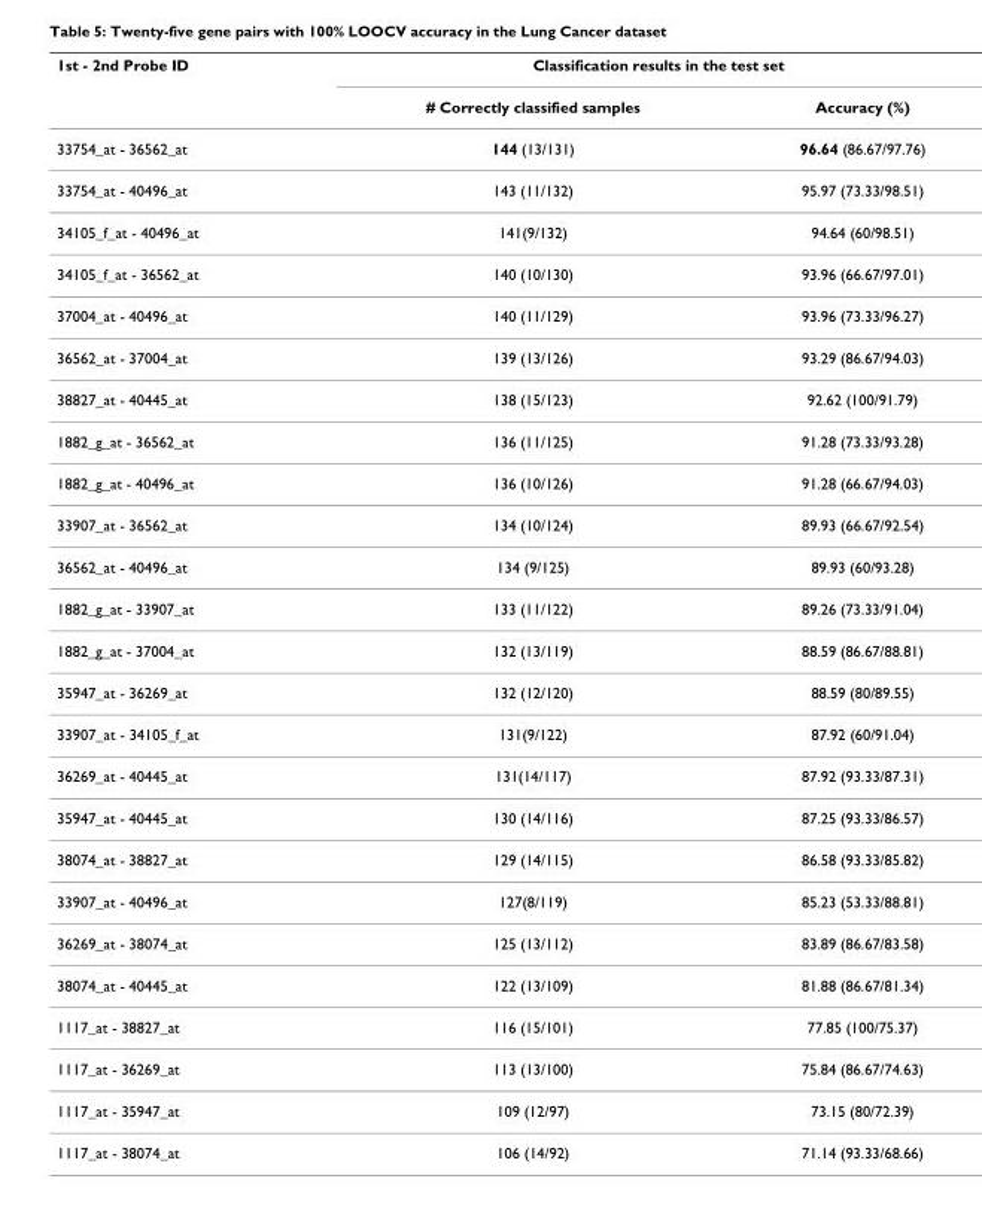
<table><thead><tr><td rowspan="2">1st - 2nd Probe ID</td><td colspan="2">Classification results in the test set</td></tr><tr><td># Correctly classified samples</td><td>Accuracy (%)</td></tr></thead><tbody><tr><td>33754_at - 36562_at</td><td>144 (13/131)</td><td>96.64 (86.67/97.76)</td></tr><tr><td>33754_at - 40496_at</td><td>143 (11/132)</td><td>95.97 (73.33/98.51)</td></tr><tr><td>34105_f_at - 40496_at</td><td>141(9/132)</td><td>94.64 (60/98.51)</td></tr><tr><td>34105_f_at - 36562_at</td><td>140 (10/130)</td><td>93.96 (66.67/97.01)</td></tr><tr><td>37004_at - 40496_at</td><td>140 (11/129)</td><td>93.96 (73.33/96.27)</td></tr><tr><td>36562_at - 37004_at</td><td>139 (13/126)</td><td>93.29 (86.67/94.03)</td></tr><tr><td>38827_at - 40445_at</td><td>138 (15/123)</td><td>92.62 (100/91.79)</td></tr><tr><td>1882_g_at - 36562_at</td><td>136 (11/125)</td><td>91.28 (73.33/93.28)</td></tr><tr><td>1882_g_at - 40496_at</td><td>136 (10/126)</td><td>91.28 (66.67/94.03)</td></tr><tr><td>33907_at - 36562_at</td><td>134 (10/124)</td><td>89.93 (66.67/92.54)</td></tr><tr><td>36562_at - 40496_at</td><td>134 (9/125)</td><td>89.93 (60/93.28)</td></tr><tr><td>1882_g_at - 33907_at</td><td>133 (11/122)</td><td>89.26 (73.33/91.04)</td></tr><tr><td>1882_g_at - 37004_at</td><td>132 (13/119)</td><td>88.59 (86.67/88.81)</td></tr><tr><td>35947_at - 36269_at</td><td>132 (12/120)</td><td>88.59 (80/89.55)</td></tr><tr><td>33907_at - 34105_f_at</td><td>131(9/122)</td><td>87.92 (60/91.04)</td></tr><tr><td>36269_at - 40445_at</td><td>131(14/117)</td><td>87.92 (93.33/87.31)</td></tr><tr><td>35947_at - 40445_at</td><td>130 (14/116)</td><td>87.25 (93.33/86.57)</td></tr><tr><td>38074_at - 38827_at</td><td>129 (14/115)</td><td>86.58 (93.33/85.82)</td></tr><tr><td>33907_at - 40496_at</td><td>127(8/119)</td><td>85.23 (53.33/88.81)</td></tr><tr><td>36269_at - 38074_at</td><td>125 (13/112)</td><td>83.89 (86.67/83.58)</td></tr><tr><td>38074_at - 40445_at</td><td>122 (13/109)</td><td>81.88 (86.67/81.34)</td></tr><tr><td>1117_at - 38827_at</td><td>116 (15/101)</td><td>77.85 (100/75.37)</td></tr><tr><td>1117_at - 36269_at</td><td>113 (13/100)</td><td>75.84 (86.67/74.63)</td></tr><tr><td>1117_at - 35947_at</td><td>109 (12/97)</td><td>73.15 (80/72.39)</td></tr><tr><td>1117_at - 38074_at</td><td>106 (14/92)</td><td>71.14 (93.33/68.66)</td></tr></tbody></table>